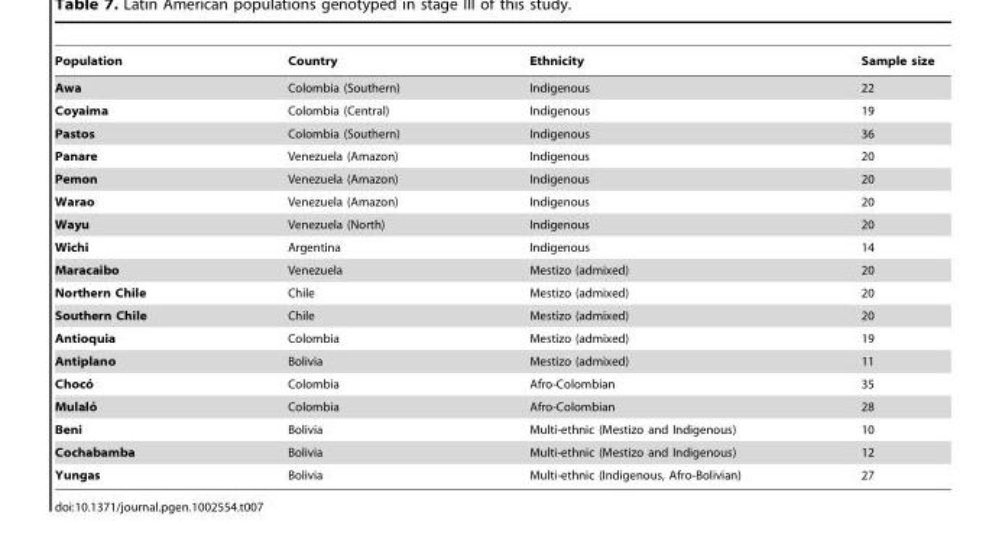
<table><thead><tr><td>Population</td><td>Country</td><td>Ethnicity</td><td>Sample size</td></tr></thead><tbody><tr><td>Awa</td><td>Colombia (Southern)</td><td>Indigenous</td><td>22</td></tr><tr><td>Coyaima</td><td>Colombia (Central)</td><td>Indigenous</td><td>19</td></tr><tr><td>Pastos</td><td>Colombia (Southern)</td><td>Indigenous</td><td>36</td></tr><tr><td>Panare</td><td>Venezuela (Amazon)</td><td>Indigenous</td><td>20</td></tr><tr><td>Pemon</td><td>Venezuela (Amazon)</td><td>Indigenous</td><td>20</td></tr><tr><td>Warao</td><td>Venezuela (Amazon)</td><td>Indigenous</td><td>20</td></tr><tr><td>Wayu</td><td>Venezuela (North)</td><td>Indigenous</td><td>20</td></tr><tr><td>Wichi</td><td>Argentina</td><td>Indigenous</td><td>14</td></tr><tr><td>Maracaibo</td><td>Venezuela</td><td>Mestizo (admixed)</td><td>20</td></tr><tr><td>Northern Chile</td><td>Chile</td><td>Mestizo (admixed)</td><td>20</td></tr><tr><td>Southern Chile</td><td>Chile</td><td>Mestizo (admixed)</td><td>20</td></tr><tr><td>Antioquia</td><td>Colombia</td><td>Mestizo (admixed)</td><td>19</td></tr><tr><td>Antiplano</td><td>Bolivia</td><td>Mestizo (admixed)</td><td>11</td></tr><tr><td>Choco´</td><td>Colombia</td><td>Afro-Colombian</td><td>35</td></tr><tr><td>Mulalo´</td><td>Colombia</td><td>Afro-Colombian</td><td>28</td></tr><tr><td>Beni</td><td>Bolivia</td><td>Multi-ethnic (Mestizo and Indigenous)</td><td>10</td></tr><tr><td>Cochabamba</td><td>Bolivia</td><td>Multi-ethnic (Mestizo and Indigenous)</td><td>12</td></tr><tr><td>Yungas</td><td>Bolivia</td><td>Multi-ethnic (Indigenous, Afro-Bolivian)</td><td>27</td></tr></tbody></table>